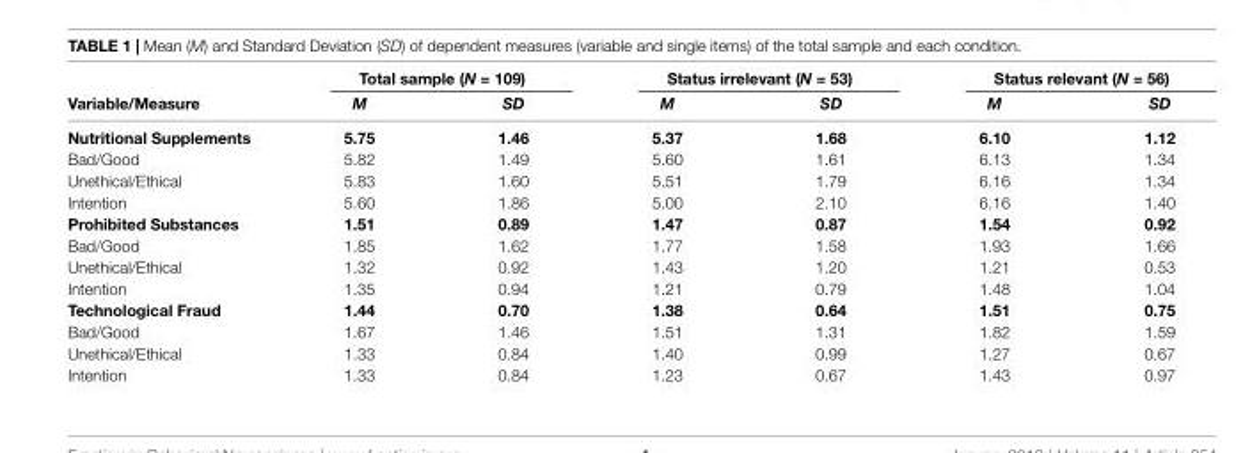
<table><thead><tr><td rowspan="2">Variable/Measure</td><td colspan="2">Total sample (N = 109)</td><td colspan="2">Status irrelevant (N = 53)</td><td colspan="2">Status relevant (N = 56)</td></tr><tr><td>M</td><td>SD</td><td>M</td><td>SD</td><td>M</td><td>SD</td></tr></thead><tbody><tr><td>Nutritional Supplements</td><td>5.75</td><td>1.46</td><td>5.37</td><td>1.68</td><td>6.10</td><td>1.12</td></tr><tr><td>Bad/Good</td><td>5.82</td><td>1.49</td><td>5.60</td><td>1.61</td><td>6.13</td><td>1.34</td></tr><tr><td>Unethical/Ethical</td><td>5.83</td><td>1.60</td><td>5.51</td><td>1.79</td><td>6.16</td><td>1.34</td></tr><tr><td>Intention</td><td>5.60</td><td>1.86</td><td>5.00</td><td>2.10</td><td>6.16</td><td>1.40</td></tr><tr><td>Prohibited Substances</td><td>1.51</td><td>0.89</td><td>1.47</td><td>0.87</td><td>1.54</td><td>0.92</td></tr><tr><td>Bad/Good</td><td>1.85</td><td>1.62</td><td>1.77</td><td>1.58</td><td>1.93</td><td>1.66</td></tr><tr><td>Unethical/Ethical</td><td>1.32</td><td>0.92</td><td>1.43</td><td>1.20</td><td>1.21</td><td>0.53</td></tr><tr><td>Intention</td><td>1.35</td><td>0.94</td><td>1.21</td><td>0.79</td><td>1.48</td><td>1.04</td></tr><tr><td>Technological Fraud</td><td>1.44</td><td>0.70</td><td>1.38</td><td>0.64</td><td>1.51</td><td>0.75</td></tr><tr><td>Bad/Good</td><td>1.67</td><td>1.46</td><td>1.51</td><td>1.31</td><td>1.82</td><td>1.59</td></tr><tr><td>Unethical/Ethical</td><td>1.33</td><td>0.84</td><td>1.40</td><td>0.99</td><td>1.27</td><td>0.67</td></tr><tr><td>Intention</td><td>1.33</td><td>0.84</td><td>1.23</td><td>0.67</td><td>1.43</td><td>0.97</td></tr></tbody></table>